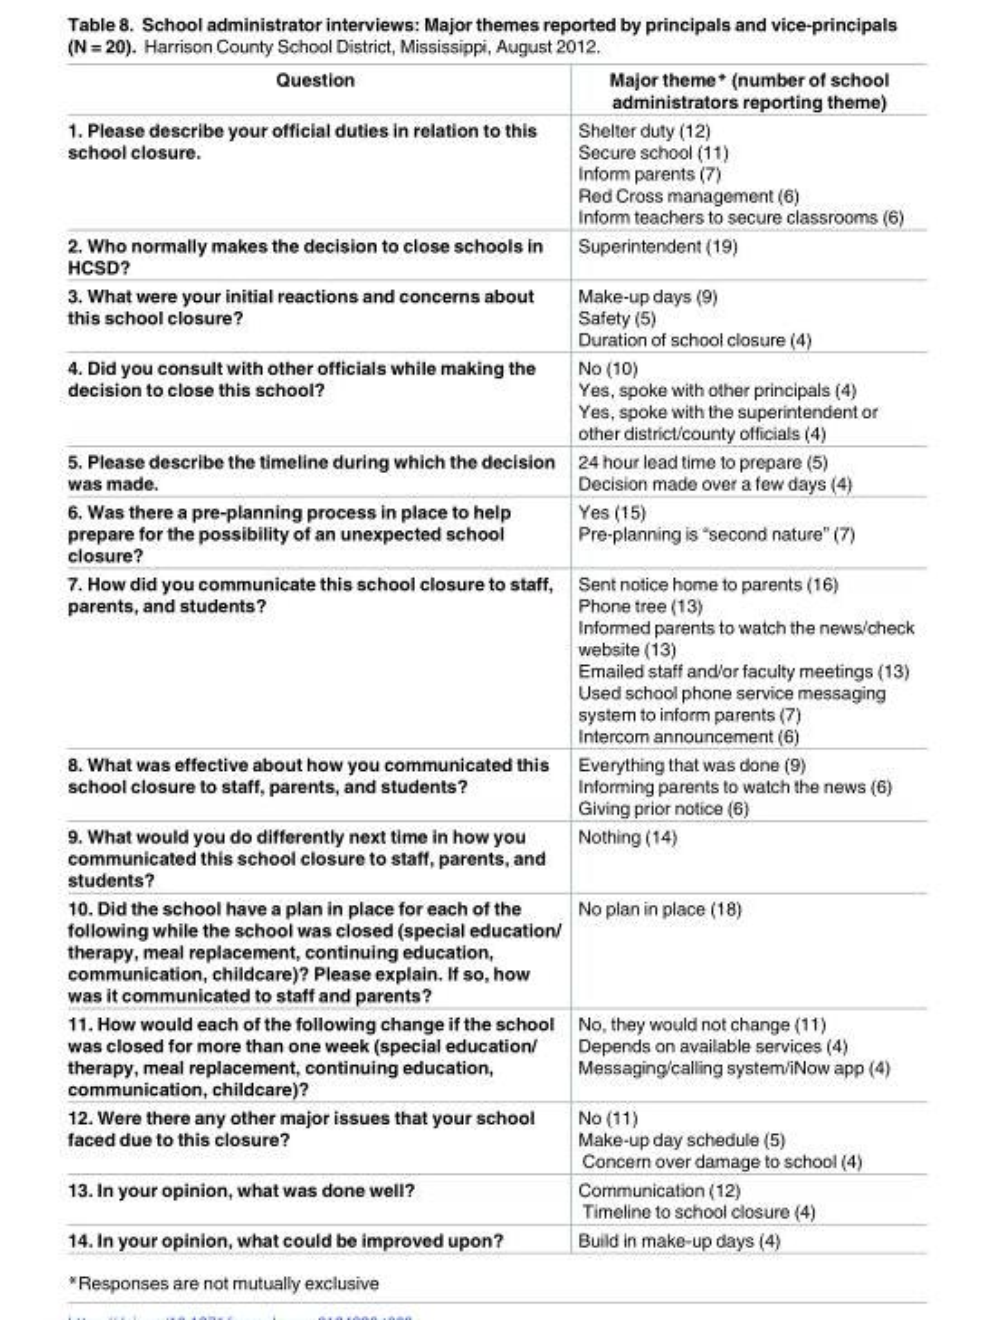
<table><thead><tr><td>Question</td><td>Major theme* (number of school administrators reporting theme)</td></tr></thead><tbody><tr><td>1. Please describe your official duties in relation to this school closure.</td><td>Shelter duty (12) Secure school (11) Inform parents (7) Red Cross management (6) Inform teachers to secure classrooms (6)</td></tr><tr><td>2. Who normally makes the decision to close schools in HCSD?</td><td>Superintendent (19)</td></tr><tr><td>3. What were your initial reactions and concerns about this school closure?</td><td>Make-up days (9) Safety (5) Duration of school closure (4)</td></tr><tr><td>4. Did you consult with other officials while making the decision to close this school?</td><td>No (10) Yes, spoke with other principals (4) Yes, spoke with the superintendent or other district/county officials (4)</td></tr><tr><td>5. Please describe the timeline during which the decision was made.</td><td>24 hour lead time to prepare (5) Decision made over a few days (4)</td></tr><tr><td>6. Was there a pre-planning process in place to help prepare for the possibility of an unexpected school closure?</td><td>Yes (15) Pre-planning is “second nature” (7)</td></tr><tr><td>7. How did you communicate this school closure to staff, parents, and students?</td><td>Sent notice home to parents (16) Phone tree (13) Informed parents to watch the news/check website (13) Emailed staff and/or faculty meetings (13) Used school phone service messaging system to inform parents (7) Intercom announcement (6)</td></tr><tr><td>8. What was effective about how you communicated this school closure to staff, parents, and students?</td><td>Everything that was done (9) Informing parents to watch the news (6) Giving prior notice (6)</td></tr><tr><td>9. What would you do differently next time in how you communicated this school closure to staff, parents, and students?</td><td>Nothing (14)</td></tr><tr><td>10. Did the school have a plan in place for each of the following while the school was closed (special education/ therapy, meal replacement, continuing education, communication, childcare)? Please explain. If so, how was it communicated to staff and parents?</td><td>No plan in place (18)</td></tr><tr><td>11. How would each of the following change if the school was closed for more than one week (special education/ therapy, meal replacement, continuing education, communication, childcare)?</td><td>No, they would not change (11) Depends on available services (4) Messaging/calling system/iNow app (4)</td></tr><tr><td>12. Were there any other major issues that your school faced due to this closure?</td><td>No (11) Make-up day schedule (5) Concern over damage to school (4)</td></tr><tr><td>13. In your opinion, what was done well?</td><td>Communication (12) Timeline to school closure (4)</td></tr><tr><td>14. In your opinion, what could be improved upon?</td><td>Build in make-up days (4)</td></tr></tbody></table>